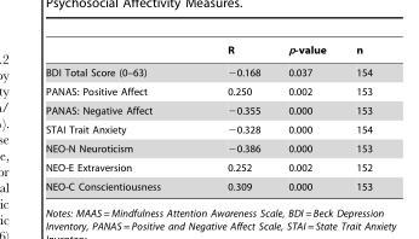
<table><thead><tr><td></td><td>R</td><td>p-value</td><td>n</td></tr></thead><tbody><tr><td>BDI Total Score (0–63)</td><td>−0.168</td><td>0.037</td><td>154</td></tr><tr><td>PANAS: Positive Affect</td><td>0.250</td><td>0.002</td><td>153</td></tr><tr><td>PANAS: Negative Affect</td><td>−0.355</td><td>0.000</td><td>153</td></tr><tr><td>STAI Trait Anxiety</td><td>−0.328</td><td>0.000</td><td>154</td></tr><tr><td>NEO-N Neuroticism</td><td>−0.386</td><td>0.000</td><td>153</td></tr><tr><td>NEO-E Extraversion</td><td>0.252</td><td>0.002</td><td>152</td></tr><tr><td>NEO-C Conscientiousness</td><td>0.309</td><td>0.000</td><td>153</td></tr></tbody></table>